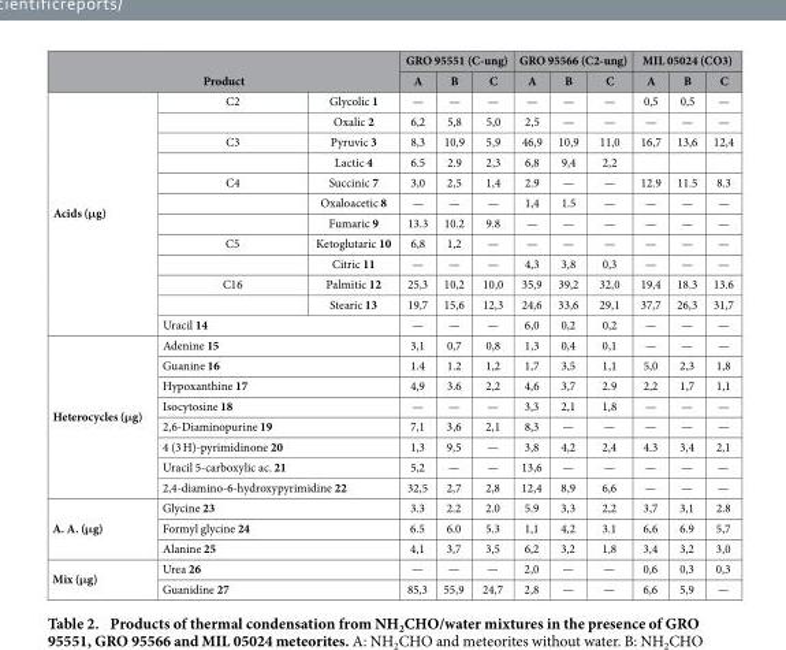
<table><thead><tr><td></td><td></td><td></td><td colspan="3">GRO 95551 (C-ung)</td><td colspan="3">GRO 95566 (C2-ung)</td><td colspan="3">MIL 05024 (CO3)</td></tr><tr><td colspan="3">Product</td><td>A</td><td>B</td><td>C</td><td>A</td><td>B</td><td>C</td><td>A</td><td>B</td><td>C</td></tr></thead><tbody><tr><td rowspan="12">Acids (μg)</td><td>C2</td><td>Glycolic 1</td><td>—</td><td>—</td><td>—</td><td>—</td><td>—</td><td>—</td><td>0,5</td><td>0,5</td><td>—</td></tr><tr><td></td><td>Oxalic 2</td><td>6,2</td><td>5,8</td><td>5,0</td><td>2,5</td><td>—</td><td>—</td><td>—</td><td>—</td><td>—</td></tr><tr><td>C3</td><td>Pyruvic 3</td><td>8,3</td><td>10,9</td><td>5,9</td><td>46,9</td><td>10,9</td><td>11,0</td><td>16,7</td><td>13,6</td><td>12,4</td></tr><tr><td></td><td>Lactic 4</td><td>6.5</td><td>2.9</td><td>2,3</td><td>6,8</td><td>9,4</td><td>2,2</td><td></td><td></td><td></td></tr><tr><td>C4</td><td>Succinic 7</td><td>3,0</td><td>2,5</td><td>1,4</td><td>2.9</td><td>—</td><td>—</td><td>12.9</td><td>11.5</td><td>8.3</td></tr><tr><td></td><td>Oxaloacetic 8</td><td>—</td><td>—</td><td>—</td><td>1,4</td><td>1.5</td><td>—</td><td>—</td><td>—</td><td>—</td></tr><tr><td></td><td>Fumaric 9</td><td>13.3</td><td>10.2</td><td>9.8</td><td>—</td><td>—</td><td>—</td><td>—</td><td>—</td><td>—</td></tr><tr><td>C5</td><td>Ketoglutaric 10</td><td>6,8</td><td>1,2</td><td>—</td><td>—</td><td>—</td><td>—</td><td>—</td><td>—</td><td>—</td></tr><tr><td></td><td>Citric 11</td><td>—</td><td>—</td><td>—</td><td>4,3</td><td>3,8</td><td>0,3</td><td>—</td><td>—</td><td>—</td></tr><tr><td>C16</td><td>Palmitic 12</td><td>25,3</td><td>10,2</td><td>10,0</td><td>35,9</td><td>39,2</td><td>32,0</td><td>19,4</td><td>18.3</td><td>13.6</td></tr><tr><td></td><td>Stearic 13</td><td>19,7</td><td>15,6</td><td>12,3</td><td>24,6</td><td>33,6</td><td>29,1</td><td>37,7</td><td>26,3</td><td>31,7</td></tr><tr><td colspan="2">Uracil 14</td><td>—</td><td>—</td><td>—</td><td>6,0</td><td>0,2</td><td>0,2</td><td>—</td><td>—</td><td>—</td></tr><tr><td rowspan="8">Heterocycles (μg)</td><td colspan="2">Adenine 15</td><td>3,1</td><td>0,7</td><td>0,8</td><td>1,3</td><td>0,4</td><td>0,1</td><td>—</td><td>—</td><td>—</td></tr><tr><td colspan="2">Guanine 16</td><td>1.4</td><td>1.2</td><td>1,2</td><td>1,7</td><td>3,5</td><td>1,1</td><td>5,0</td><td>2,3</td><td>1,8</td></tr><tr><td colspan="2">Hypoxanthine 17</td><td>4,9</td><td>3.6</td><td>2,2</td><td>4,6</td><td>3,7</td><td>2.9</td><td>2,2</td><td>1,7</td><td>1,1</td></tr><tr><td colspan="2">Isocytosine 18</td><td>—</td><td>—</td><td>—</td><td>3,3</td><td>2,1</td><td>1,8</td><td>—</td><td>—</td><td>—</td></tr><tr><td colspan="2">2,6-Diaminopurine 19</td><td>7,1</td><td>3,6</td><td>2,1</td><td>8,3</td><td>—</td><td>—</td><td>—</td><td>—</td><td>—</td></tr><tr><td colspan="2">4 (3 H)-pyrimidinone 20</td><td>1,3</td><td>9,5</td><td>—</td><td>3,8</td><td>4,2</td><td>2,4</td><td>4.3</td><td>3,4</td><td>2,1</td></tr><tr><td colspan="2">Uracil 5-carboxylic ac. 21</td><td>5,2</td><td>—</td><td>—</td><td>13,6</td><td>—</td><td>—</td><td>—</td><td>—</td><td>—</td></tr><tr><td colspan="2">2,4-diamino-6-hydroxypyrimidine 22</td><td>32,5</td><td>2,7</td><td>2,8</td><td>12,4</td><td>8,9</td><td>6,6</td><td>—</td><td>—</td><td>—</td></tr><tr><td rowspan="3">A. A. (μg)</td><td colspan="2">Glycine 23</td><td>3.3</td><td>2.2</td><td>2.0</td><td>5.9</td><td>3,3</td><td>2,2</td><td>3,7</td><td>3,1</td><td>2.8</td></tr><tr><td colspan="2">Formyl glycine 24</td><td>6.5</td><td>6.0</td><td>5.3</td><td>1,1</td><td>4,2</td><td>3.1</td><td>6,6</td><td>6.9</td><td>5,7</td></tr><tr><td colspan="2">Alanine 25</td><td>4,1</td><td>3,7</td><td>3,5</td><td>6,2</td><td>3,2</td><td>1,8</td><td>3,4</td><td>3,2</td><td>3,0</td></tr><tr><td rowspan="2">Mix (μg)</td><td colspan="2">Urea 26</td><td>—</td><td>—</td><td>—</td><td>2,0</td><td>—</td><td>—</td><td>0,6</td><td>0,3</td><td>0,3</td></tr><tr><td colspan="2">Guanidine 27</td><td>85,3</td><td>55,9</td><td>24,7</td><td>2,8</td><td>—</td><td>—</td><td>6,6</td><td>5,9</td><td>—</td></tr></tbody></table>